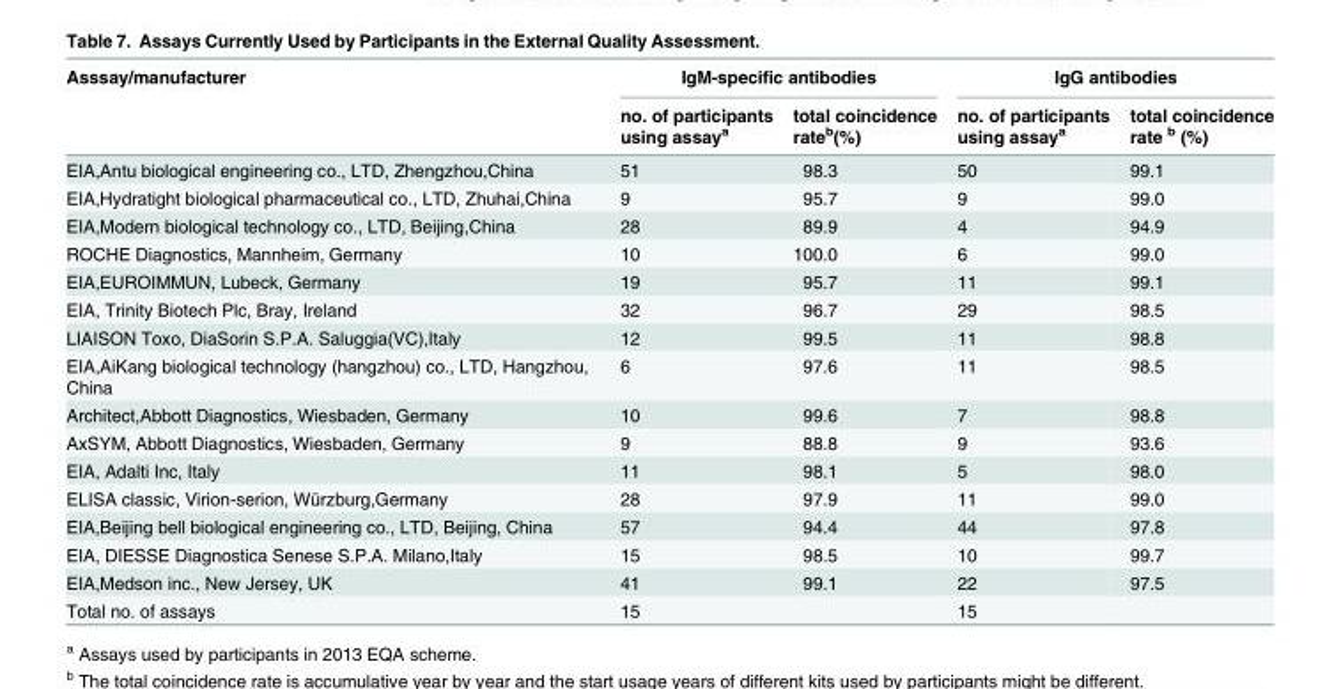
<table><thead><tr><td rowspan="2">Asssay/manufacturer</td><td colspan="2">IgM-specific antibodies</td><td colspan="2">IgG antibodies</td></tr><tr><td>no. of participants using assay<sup>a</sup></td><td>total coincidence rate<sup>b</sup>(%)</td><td>no. of participants using assay<sup>a</sup></td><td>total coincidence rate <sup>b</sup> (%)</td></tr></thead><tbody><tr><td>EIA,Antu biological engineering co., LTD, Zhengzhou,China</td><td>51</td><td>98.3</td><td>50</td><td>99.1</td></tr><tr><td>EIA,Hydratight biological pharmaceutical co., LTD, Zhuhai,China</td><td>9</td><td>95.7</td><td>9</td><td>99.0</td></tr><tr><td>EIA,Modern biological technology co., LTD, Beijing,China</td><td>28</td><td>89.9</td><td>4</td><td>94.9</td></tr><tr><td>ROCHE Diagnostics, Mannheim, Germany</td><td>10</td><td>100.0</td><td>6</td><td>99.0</td></tr><tr><td>EIA,EUROIMMUN, Lubeck, Germany</td><td>19</td><td>95.7</td><td>11</td><td>99.1</td></tr><tr><td>EIA, Trinity Biotech Plc, Bray, Ireland</td><td>32</td><td>96.7</td><td>29</td><td>98.5</td></tr><tr><td>LIAISON Toxo, DiaSorin S.P.A. Saluggia(VC),Italy</td><td>12</td><td>99.5</td><td>11</td><td>98.8</td></tr><tr><td>EIA,AiKang biological technology (hangzhou) co., LTD, Hangzhou, China</td><td>6</td><td>97.6</td><td>11</td><td>98.5</td></tr><tr><td>Architect,Abbott Diagnostics, Wiesbaden, Germany</td><td>10</td><td>99.6</td><td>7</td><td>98.8</td></tr><tr><td>AxSYM, Abbott Diagnostics, Wiesbaden, Germany</td><td>9</td><td>88.8</td><td>9</td><td>93.6</td></tr><tr><td>EIA, Adalti Inc, Italy</td><td>11</td><td>98.1</td><td>5</td><td>98.0</td></tr><tr><td>ELISA classic, Virion-serion, Würzburg,Germany</td><td>28</td><td>97.9</td><td>11</td><td>99.0</td></tr><tr><td>EIA,Beijing bell biological engineering co., LTD, Beijing, China</td><td>57</td><td>94.4</td><td>44</td><td>97.8</td></tr><tr><td>EIA, DIESSE Diagnostica Senese S.P.A. Milano,Italy</td><td>15</td><td>98.5</td><td>10</td><td>99.7</td></tr><tr><td>EIA,Medson inc., New Jersey, UK</td><td>41</td><td>99.1</td><td>22</td><td>97.5</td></tr><tr><td>Total no. of assays</td><td>15</td><td></td><td>15</td><td></td></tr></tbody></table>